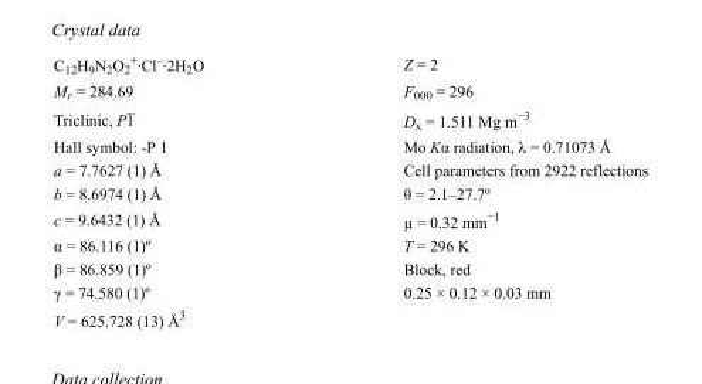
<table><tbody><tr><td>C<sub>12</sub>H<sub>9</sub>N<sub>2</sub>O<sub>2</sub> <sup>+</sup>·Cl<sup>–</sup>·2H<sub>2</sub>O</td><td>Z = 2</td></tr><tr><td>M<sub>r</sub> = 284.69</td><td>F000 = 296</td></tr><tr><td>Triclinic, P1</td><td>D<sub>x</sub> = 1.511 Mg m<sup>−3</sup></td></tr><tr><td>Hall symbol: -P 1</td><td>Mo Kα radiation, λ = 0.71073 Å</td></tr><tr><td>a = 7.7627 (1) Å</td><td>Cell parameters from 2922 reflections</td></tr><tr><td>b = 8.6974 (1) Å</td><td>θ = 2.1–27.7º</td></tr><tr><td>c = 9.6432 (1) Å</td><td>µ = 0.32 mm<sup>−1</sup></td></tr><tr><td>α = 86.116 (1)º</td><td>T = 296 K</td></tr><tr><td>β = 86.859 (1)º</td><td>Block, red</td></tr><tr><td>γ = 74.580 (1)º</td><td>0.25 × 0.12 × 0.03 mm</td></tr><tr><td>V = 625.728 (13) Å3</td><td></td></tr></tbody></table>